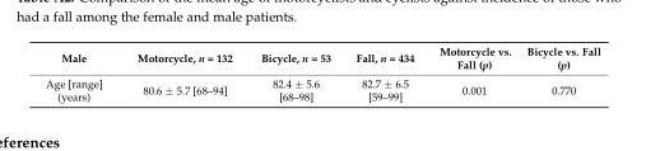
<table><thead><tr><td>Male</td><td>Motorcycle, n = 132</td><td>Bicycle, n = 53</td><td>Fall, n = 434</td><td>Motorcycle vs. Fall (p)</td><td>Bicycle vs. Fall (p)</td></tr></thead><tbody><tr><td>Age [range] (years)</td><td>80.6 ± 5.7 [68–94]</td><td>82.4 ± 5.6 [68–98]</td><td>82.7 ± 6.5 [59–99]</td><td>0.001</td><td>0.770</td></tr></tbody></table>